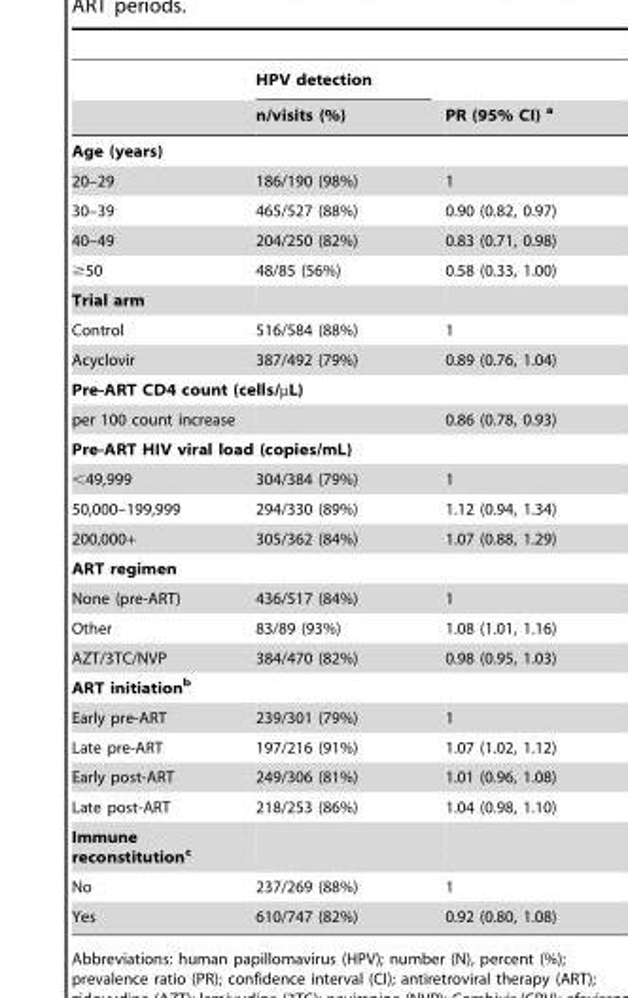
<table><thead><tr><td rowspan="2"></td><td rowspan="2">HPV detection n/visits (%)</td><td rowspan="2">PR (95% CI) a</td></tr><tr></tr></thead><tbody><tr><td colspan="3">Age (years)</td></tr><tr><td>20–29</td><td>186/190 (98%)</td><td>1</td></tr><tr><td>30–39</td><td>465/527 (88%)</td><td>0.90 (0.82, 0.97)</td></tr><tr><td>40–49</td><td>204/250 (82%)</td><td>0.83 (0.71, 0.98)</td></tr><tr><td>≥50</td><td>48/85 (56%)</td><td>0.58 (0.33, 1.00)</td></tr><tr><td colspan="3">Trial arm</td></tr><tr><td>Control</td><td>516/584 (88%)</td><td>1</td></tr><tr><td>Acyclovir</td><td>387/492 (79%)</td><td>0.89 (0.76, 1.04)</td></tr><tr><td colspan="3">Pre-ART CD4 count (cells/µL)</td></tr><tr><td>per 100 count increase</td><td></td><td>0.86 (0.78, 0.93)</td></tr><tr><td colspan="3">Pre-ART HIV viral load (copies/mL)</td></tr><tr><td>&lt;49,999</td><td>304/384 (79%)</td><td>1</td></tr><tr><td>50,000–199,999</td><td>294/330 (89%)</td><td>1.12 (0.94, 1.34)</td></tr><tr><td>200,000+</td><td>305/362 (84%)</td><td>1.07 (0.88, 1.29)</td></tr><tr><td colspan="3">ART regimen</td></tr><tr><td>None (pre-ART)</td><td>436/517 (84%)</td><td>1</td></tr><tr><td>Other</td><td>83/89 (93%)</td><td>1.08 (1.01, 1.16)</td></tr><tr><td>AZT/3TC/NVP</td><td>384/470 (82%)</td><td>0.98 (0.95, 1.03)</td></tr><tr><td colspan="3">ART initiationb</td></tr><tr><td>Early pre-ART</td><td>239/301 (79%)</td><td>1</td></tr><tr><td>Late pre-ART</td><td>197/216 (91%)</td><td>1.07 (1.02, 1.12)</td></tr><tr><td>Early post-ART</td><td>249/306 (81%)</td><td>1.01 (0.96, 1.08)</td></tr><tr><td>Late post-ART</td><td>218/253 (86%)</td><td>1.04 (0.98, 1.10)</td></tr><tr><td colspan="3">Immune reconstitutionc</td></tr><tr><td>No</td><td>237/269 (88%)</td><td>1</td></tr><tr><td>Yes</td><td>610/747 (82%)</td><td>0.92 (0.80, 1.08)</td></tr></tbody></table>